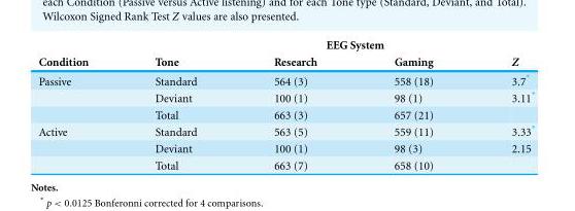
<table><thead><tr><td rowspan="2">Condition</td><td rowspan="2">Tone</td><td colspan="2">EEG System</td><td rowspan="2">Z</td></tr><tr><td>Research</td><td>Gaming</td></tr></thead><tbody><tr><td rowspan="3">Passive</td><td>Standard</td><td>564 (3)</td><td>558 (18)</td><td>3.7*</td></tr><tr><td>Deviant</td><td>100 (1)</td><td>98 (1)</td><td>3.11*</td></tr><tr><td>Total</td><td>663 (3)</td><td>657 (21)</td><td></td></tr><tr><td rowspan="3">Active</td><td>Standard</td><td>563 (5)</td><td>559 (11)</td><td>3.33*</td></tr><tr><td>Deviant</td><td>100 (1)</td><td>98 (3)</td><td>2.15</td></tr><tr><td>Total</td><td>663 (7)</td><td>658 (10)</td><td></td></tr></tbody></table>